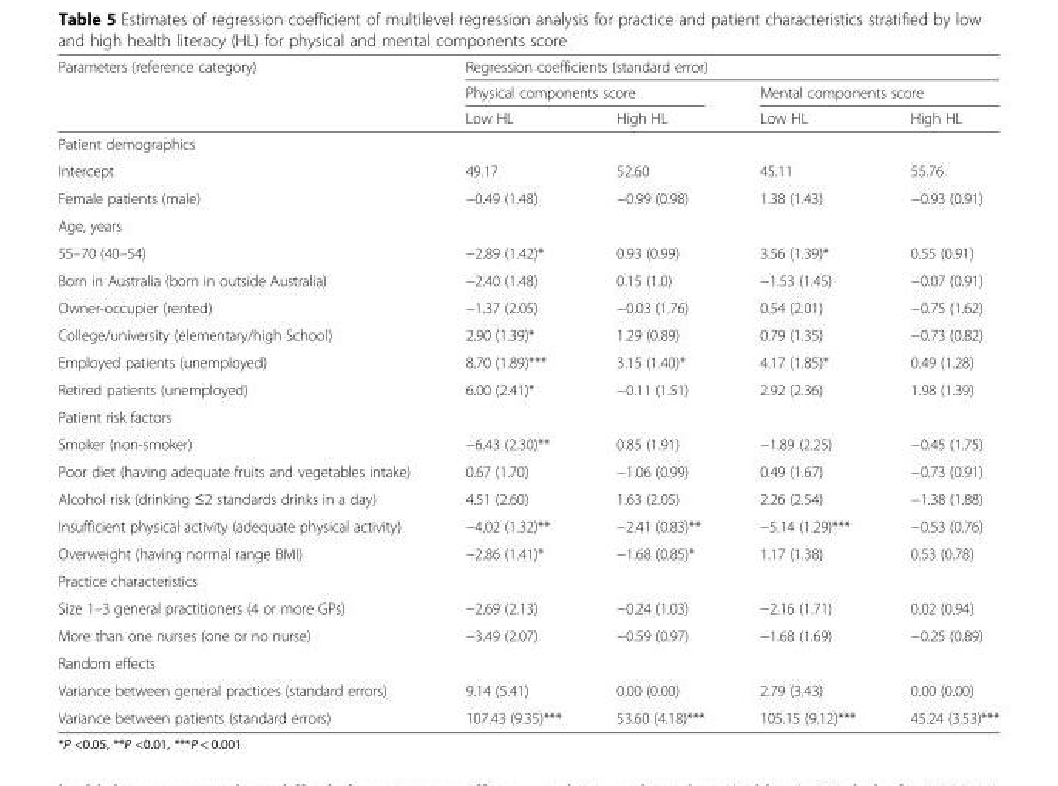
<table><thead><tr><td rowspan="3">Parameters (reference category)</td><td colspan="4">Regression coefficients (standard error)</td></tr><tr><td colspan="2">Physical components score</td><td colspan="2">Mental components score</td></tr><tr><td>Low HL</td><td>High HL</td><td>Low HL</td><td>High HL</td></tr></thead><tbody><tr><td colspan="5">Patient demographics</td></tr><tr><td>Intercept</td><td>49.17</td><td>52.60</td><td>45.11</td><td>55.76</td></tr><tr><td>Female patients (male)</td><td>−0.49 (1.48)</td><td>−0.99 (0.98)</td><td>1.38 (1.43)</td><td>−0.93 (0.91)</td></tr><tr><td colspan="5">Age, years</td></tr><tr><td>55–70 (40–54)</td><td>−2.89 (1.42)*</td><td>0.93 (0.99)</td><td>3.56 (1.39)*</td><td>0.55 (0.91)</td></tr><tr><td>Born in Australia (born in outside Australia)</td><td>−2.40 (1.48)</td><td>0.15 (1.0)</td><td>−1.53 (1.45)</td><td>−0.07 (0.91)</td></tr><tr><td>Owner-occupier (rented)</td><td>−1.37 (2.05)</td><td>−0.03 (1.76)</td><td>0.54 (2.01)</td><td>−0.75 (1.62)</td></tr><tr><td>College/university (elementary/high School)</td><td>2.90 (1.39)*</td><td>1.29 (0.89)</td><td>0.79 (1.35)</td><td>−0.73 (0.82)</td></tr><tr><td>Employed patients (unemployed)</td><td>8.70 (1.89)***</td><td>3.15 (1.40)*</td><td>4.17 (1.85)*</td><td>0.49 (1.28)</td></tr><tr><td>Retired patients (unemployed)</td><td>6.00 (2.41)*</td><td>−0.11 (1.51)</td><td>2.92 (2.36)</td><td>1.98 (1.39)</td></tr><tr><td colspan="5">Patient risk factors</td></tr><tr><td>Smoker (non-smoker)</td><td>−6.43 (2.30)**</td><td>0.85 (1.91)</td><td>−1.89 (2.25)</td><td>−0.45 (1.75)</td></tr><tr><td>Poor diet (having adequate fruits and vegetables intake)</td><td>0.67 (1.70)</td><td>−1.06 (0.99)</td><td>0.49 (1.67)</td><td>−0.73 (0.91)</td></tr><tr><td>Alcohol risk (drinking ≤2 standards drinks in a day)</td><td>4.51 (2.60)</td><td>1.63 (2.05)</td><td>2.26 (2.54)</td><td>−1.38 (1.88)</td></tr><tr><td>Insufficient physical activity (adequate physical activity)</td><td>−4.02 (1.32)**</td><td>−2.41 (0.83)**</td><td>−5.14 (1.29)***</td><td>−0.53 (0.76)</td></tr><tr><td>Overweight (having normal range BMI)</td><td>−2.86 (1.41)*</td><td>−1.68 (0.85)*</td><td>1.17 (1.38)</td><td>0.53 (0.78)</td></tr><tr><td colspan="5">Practice characteristics</td></tr><tr><td>Size 1–3 general practitioners (4 or more GPs)</td><td>−2.69 (2.13)</td><td>−0.24 (1.03)</td><td>−2.16 (1.71)</td><td>0.02 (0.94)</td></tr><tr><td>More than one nurses (one or no nurse)</td><td>−3.49 (2.07)</td><td>−0.59 (0.97)</td><td>−1.68 (1.69)</td><td>−0.25 (0.89)</td></tr><tr><td colspan="5">Random effects</td></tr><tr><td>Variance between general practices (standard errors)</td><td>9.14 (5.41)</td><td>0.00 (0.00)</td><td>2.79 (3.43)</td><td>0.00 (0.00)</td></tr><tr><td>Variance between patients (standard errors)</td><td>107.43 (9.35)***</td><td>53.60 (4.18)***</td><td>105.15 (9.12)***</td><td>45.24 (3.53)***</td></tr></tbody></table>